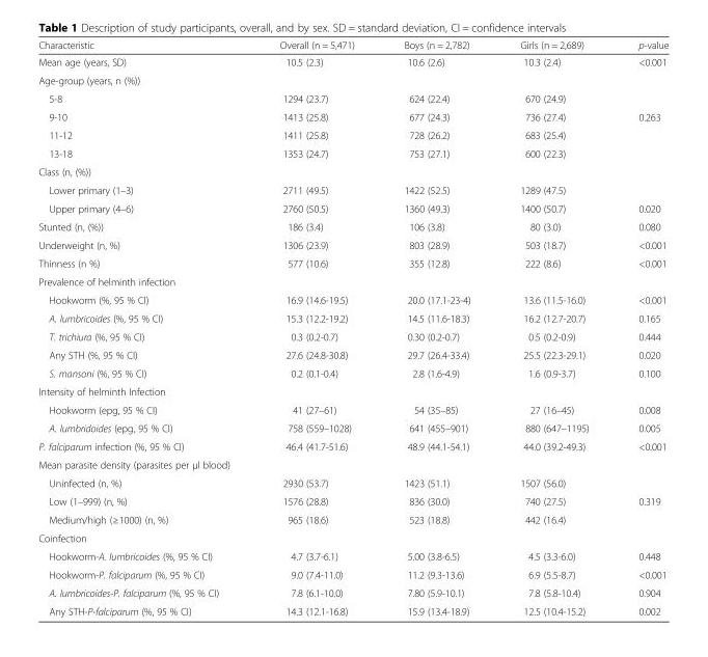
<table><thead><tr><td>Characteristic</td><td>Overall (n = 5,471)</td><td>Boys (n = 2,782)</td><td>Girls (n = 2,689)</td><td>p-value</td></tr></thead><tbody><tr><td>Mean age (years, SD)</td><td>10.5 (2.3)</td><td>10.6 (2.6)</td><td>10.3 (2.4)</td><td>&lt;0.001</td></tr><tr><td colspan="5">Age-group (years, n (%))</td></tr><tr><td>5-8</td><td>1294 (23.7)</td><td>624 (22.4)</td><td>670 (24.9)</td><td></td></tr><tr><td>9-10</td><td>1413 (25.8)</td><td>677 (24.3)</td><td>736 (27.4)</td><td>0.263</td></tr><tr><td>11-12</td><td>1411 (25.8)</td><td>728 (26.2)</td><td>683 (25.4)</td><td></td></tr><tr><td>13-18</td><td>1353 (24.7)</td><td>753 (27.1)</td><td>600 (22.3)</td><td></td></tr><tr><td colspan="5">Class (n, (%))</td></tr><tr><td>Lower primary (1–3)</td><td>2711 (49.5)</td><td>1422 (52.5)</td><td>1289 (47.5)</td><td></td></tr><tr><td>Upper primary (4–6)</td><td>2760 (50.5)</td><td>1360 (49.3)</td><td>1400 (50.7)</td><td>0.020</td></tr><tr><td>Stunted (n, (%))</td><td>186 (3.4)</td><td>106 (3.8)</td><td>80 (3.0)</td><td>0.080</td></tr><tr><td>Underweight (n, %)</td><td>1306 (23.9)</td><td>803 (28.9)</td><td>503 (18.7)</td><td>&lt;0.001</td></tr><tr><td>Thinness (n %)</td><td>577 (10.6)</td><td>355 (12.8)</td><td>222 (8.6)</td><td>&lt;0.001</td></tr><tr><td colspan="5">Prevalence of helminth infection</td></tr><tr><td>Hookworm (%, 95 % CI)</td><td>16.9 (14.6-19.5)</td><td>20.0 (17.1-23-4)</td><td>13.6 (11.5-16.0)</td><td>&lt;0.001</td></tr><tr><td>A. lumbricoides (%, 95 % CI)</td><td>15.3 (12.2-19.2)</td><td>14.5 (11.6-18.3)</td><td>16.2 (12.7-20.7)</td><td>0.165</td></tr><tr><td>T. trichiura (%, 95 % CI)</td><td>0.3 (0.2-0.7)</td><td>0.30 (0.2-0.7)</td><td>0.5 (0.2-0.9)</td><td>0.444</td></tr><tr><td>Any STH (%, 95 % CI)</td><td>27.6 (24.8-30.8)</td><td>29.7 (26.4-33.4)</td><td>25.5 (22.3-29.1)</td><td>0.020</td></tr><tr><td>S. mansoni (%, 95 % CI)</td><td>0.2 (0.1-0.4)</td><td>2.8 (1.6-4.9)</td><td>1.6 (0.9-3.7)</td><td>0.100</td></tr><tr><td colspan="5">Intensity of helminth Infection</td></tr><tr><td>Hookworm (epg, 95 % CI)</td><td>41 (27–61)</td><td>54 (35–85)</td><td>27 (16–45)</td><td>0.008</td></tr><tr><td>A. lumbridoides (epg, 95 % CI)</td><td>758 (559–1028)</td><td>641 (455–901)</td><td>880 (647–1195)</td><td>0.005</td></tr><tr><td>P. falciparum infection (%, 95 % CI)</td><td>46.4 (41.7-51.6)</td><td>48.9 (44.1-54.1)</td><td>44.0 (39.2-49.3)</td><td>&lt;0.001</td></tr><tr><td colspan="5">Mean parasite density (parasites per μl blood)</td></tr><tr><td>Uninfected (n, %)</td><td>2930 (53.7)</td><td>1423 (51.1)</td><td>1507 (56.0)</td><td></td></tr><tr><td>Low (1–999) (n, %)</td><td>1576 (28.8)</td><td>836 (30.0)</td><td>740 (27.5)</td><td>0.319</td></tr><tr><td>Medium/high (≥1000) (n, %)</td><td>965 (18.6)</td><td>523 (18.8)</td><td>442 (16.4)</td><td></td></tr><tr><td colspan="5">Coinfection</td></tr><tr><td>Hookworm-A. lumbricoides (%, 95 % CI)</td><td>4.7 (3.7-6.1)</td><td>5.00 (3.8-6.5)</td><td>4.5 (3.3-6.0)</td><td>0.448</td></tr><tr><td>Hookworm-P. falciparum (%, 95 % CI)</td><td>9.0 (7.4-11.0)</td><td>11.2 (9.3-13.6)</td><td>6.9 (5.5-8.7)</td><td>&lt;0.001</td></tr><tr><td>A. lumbricoides-P. falciparum (%, 95 % CI)</td><td>7.8 (6.1-10.0)</td><td>7.80 (5.9-10.1)</td><td>7.8 (5.8-10.4)</td><td>0.904</td></tr><tr><td>Any STH-P-falciparum (%, 95 % CI)</td><td>14.3 (12.1-16.8)</td><td>15.9 (13.4-18.9)</td><td>12.5 (10.4-15.2)</td><td>0.002</td></tr></tbody></table>